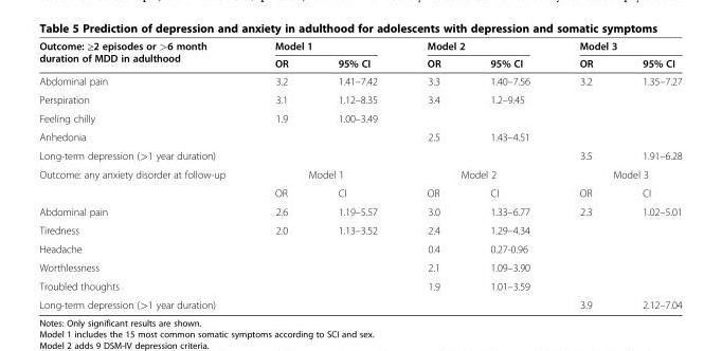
<table><thead><tr><td rowspan="2">Outcome: ≥2 episodes or &gt;6 month duration of MDD in adulthood</td><td colspan="2">Model 1</td><td colspan="2">Model 2</td><td colspan="2">Model 3</td></tr><tr><td>OR</td><td>95% CI</td><td>OR</td><td>95% CI</td><td>OR</td><td>95% CI</td></tr></thead><tbody><tr><td>Abdominal pain</td><td>3.2</td><td>1.41–7.42</td><td>3.3</td><td>1.40–7.56</td><td>3.2</td><td>1.35–7.27</td></tr><tr><td>Perspiration</td><td>3.1</td><td>1.12–8.35</td><td>3.4</td><td>1.2–9.45</td><td></td><td></td></tr><tr><td>Feeling chilly</td><td>1.9</td><td>1.00–3.49</td><td></td><td></td><td></td><td></td></tr><tr><td>Anhedonia</td><td></td><td></td><td>2.5</td><td>1.43–4.51</td><td></td><td></td></tr><tr><td>Long-term depression (&gt;1 year duration)</td><td></td><td></td><td></td><td></td><td>3.5</td><td>1.91–6.28</td></tr><tr><td rowspan="2">Outcome: any anxiety disorder at follow-up</td><td colspan="2">Model 1</td><td colspan="2">Model 2</td><td colspan="2">Model 3</td></tr><tr><td>OR</td><td>CI</td><td>OR</td><td>CI</td><td>OR</td><td>CI</td></tr><tr><td>Abdominal pain</td><td>2.6</td><td>1.19–5.57</td><td>3.0</td><td>1.33–6.77</td><td>2.3</td><td>1.02–5.01</td></tr><tr><td>Tiredness</td><td>2.0</td><td>1.13–3.52</td><td>2.4</td><td>1.29–4.34</td><td></td><td></td></tr><tr><td>Headache</td><td></td><td></td><td>0.4</td><td>0.27-0.96</td><td></td><td></td></tr><tr><td>Worthlessness</td><td></td><td></td><td>2.1</td><td>1.09–3.90</td><td></td><td></td></tr><tr><td>Troubled thoughts</td><td></td><td></td><td>1.9</td><td>1.01–3.59</td><td></td><td></td></tr><tr><td>Long-term depression (&gt;1 year duration)</td><td></td><td></td><td></td><td></td><td>3.9</td><td>2.12–7.04</td></tr></tbody></table>